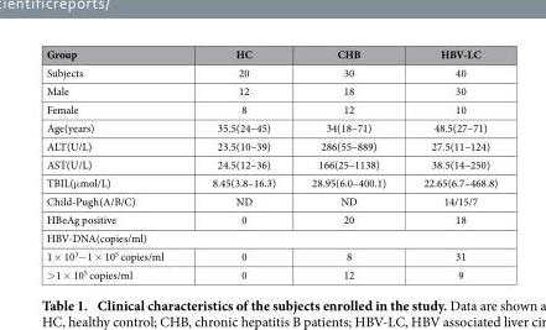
<table><thead><tr><td>Group</td><td>HC</td><td>CHB</td><td>HBV-LC</td></tr></thead><tbody><tr><td>Subjects</td><td>20</td><td>30</td><td>40</td></tr><tr><td>Male</td><td>12</td><td>18</td><td>30</td></tr><tr><td>Female</td><td>8</td><td>12</td><td>10</td></tr><tr><td>Age(years)</td><td>35.5(24–45)</td><td>34(18–71)</td><td>48.5(27–71)</td></tr><tr><td>ALT(U/L)</td><td>23.5(10–39)</td><td>286(55–889)</td><td>27.5(11–124)</td></tr><tr><td>AST(U/L)</td><td>24.5(12–36)</td><td>166(25–1138)</td><td>38.5(14–250)</td></tr><tr><td>TBIL(μ mol/L)</td><td>8.45(3.8–16.3)</td><td>28.95(6.0–400.1)</td><td>22.65(6.7–468.8)</td></tr><tr><td>Child-Pugh(A/B/C)</td><td>ND</td><td>ND</td><td>14/15/7</td></tr><tr><td>HBeAg positive</td><td>0</td><td>20</td><td>18</td></tr><tr><td colspan="4">HBV-DNA(copies/ml)</td></tr><tr><td>1 × 10<sup>3</sup>− 1 × 10<sup>5</sup> copies/ml</td><td>0</td><td>8</td><td>31</td></tr><tr><td>&gt; 1 × 10<sup>5</sup> copies/ml</td><td>0</td><td>12</td><td>9</td></tr></tbody></table>